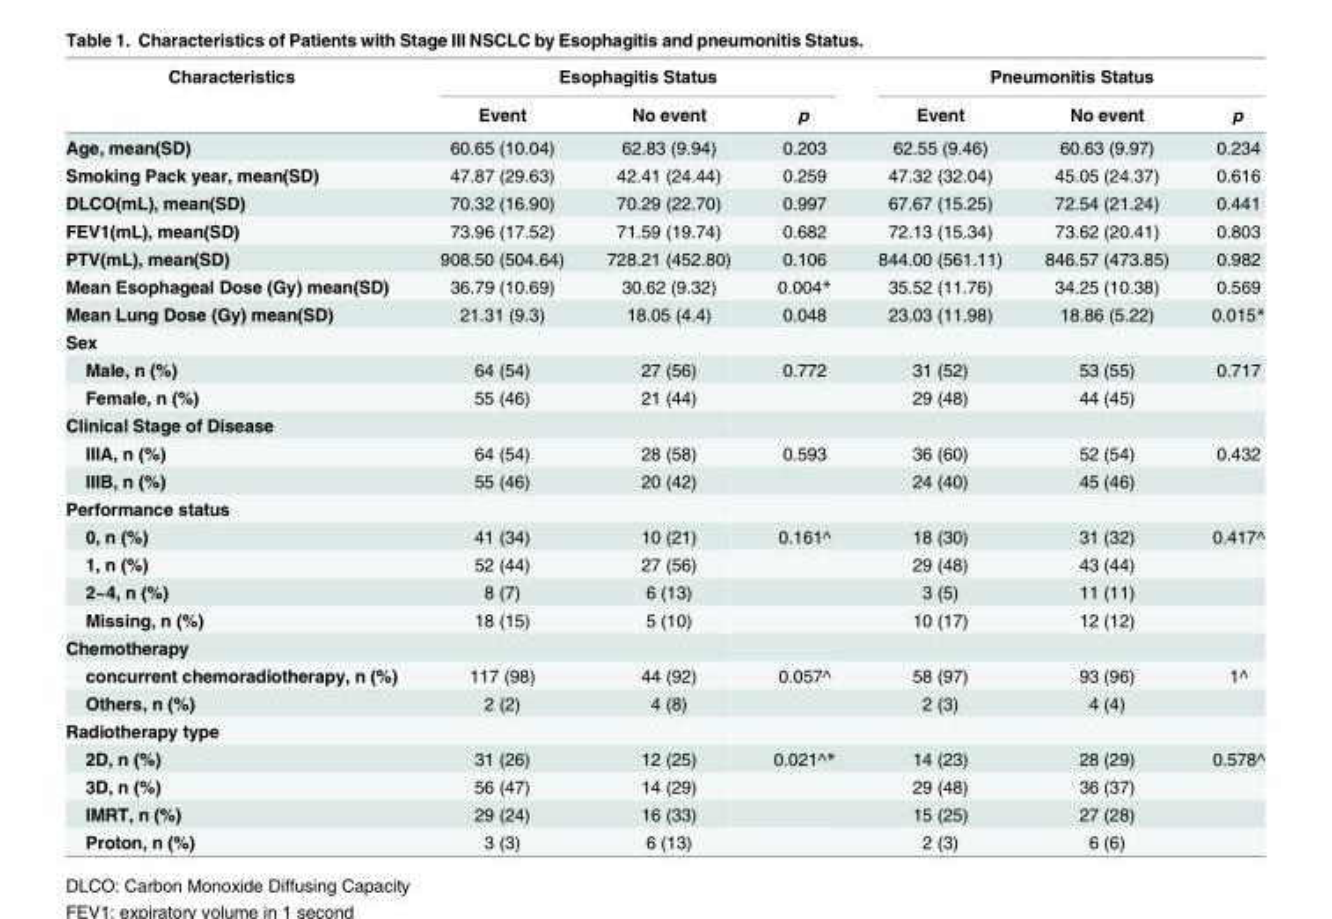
<table><thead><tr><td rowspan="2">Characteristics</td><td colspan="3">Esophagitis Status</td><td colspan="3">Pneumonitis Status</td></tr><tr><td>Event</td><td>No event</td><td>p</td><td>Event</td><td>No event</td><td>p</td></tr></thead><tbody><tr><td>Age, mean(SD)</td><td>60.65 (10.04)</td><td>62.83 (9.94)</td><td>0.203</td><td>62.55 (9.46)</td><td>60.63 (9.97)</td><td>0.234</td></tr><tr><td>Smoking Pack year, mean(SD)</td><td>47.87 (29.63)</td><td>42.41 (24.44)</td><td>0.259</td><td>47.32 (32.04)</td><td>45.05 (24.37)</td><td>0.616</td></tr><tr><td>DLCO(mL), mean(SD)</td><td>70.32 (16.90)</td><td>70.29 (22.70)</td><td>0.997</td><td>67.67 (15.25)</td><td>72.54 (21.24)</td><td>0.441</td></tr><tr><td>FEV1(mL), mean(SD)</td><td>73.96 (17.52)</td><td>71.59 (19.74)</td><td>0.682</td><td>72.13 (15.34)</td><td>73.62 (20.41)</td><td>0.803</td></tr><tr><td>PTV(mL), mean(SD)</td><td>908.50 (504.64)</td><td>728.21 (452.80)</td><td>0.106</td><td>844.00 (561.11)</td><td>846.57 (473.85)</td><td>0.982</td></tr><tr><td>Mean Esophageal Dose (Gy) mean(SD)</td><td>36.79 (10.69)</td><td>30.62 (9.32)</td><td>0.004*</td><td>35.52 (11.76)</td><td>34.25 (10.38)</td><td>0.569</td></tr><tr><td>Mean Lung Dose (Gy) mean(SD)</td><td>21.31 (9.3)</td><td>18.05 (4.4)</td><td>0.048</td><td>23.03 (11.98)</td><td>18.86 (5.22)</td><td>0.015*</td></tr><tr><td colspan="7">Sex</td></tr><tr><td>Male, n (%)</td><td>64 (54)</td><td>27 (56)</td><td>0.772</td><td>31 (52)</td><td>53 (55)</td><td>0.717</td></tr><tr><td>Female, n (%)</td><td>55 (46)</td><td>21 (44)</td><td></td><td>29 (48)</td><td>44 (45)</td><td></td></tr><tr><td colspan="7">Clinical Stage of Disease</td></tr><tr><td>IIIA, n (%)</td><td>64 (54)</td><td>28 (58)</td><td>0.593</td><td>36 (60)</td><td>52 (54)</td><td>0.432</td></tr><tr><td>IIIB, n (%)</td><td>55 (46)</td><td>20 (42)</td><td></td><td>24 (40)</td><td>45 (46)</td><td></td></tr><tr><td colspan="7">Performance status</td></tr><tr><td>0, n (%)</td><td>41 (34)</td><td>10 (21)</td><td>0.161^</td><td>18 (30)</td><td>31 (32)</td><td>0.417^</td></tr><tr><td>1, n (%)</td><td>52 (44)</td><td>27 (56)</td><td></td><td>29 (48)</td><td>43 (44)</td><td></td></tr><tr><td>2~4, n (%)</td><td>8 (7)</td><td>6 (13)</td><td></td><td>3 (5)</td><td>11 (11)</td><td></td></tr><tr><td>Missing, n (%)</td><td>18 (15)</td><td>5 (10)</td><td></td><td>10 (17)</td><td>12 (12)</td><td></td></tr><tr><td colspan="7">Chemotherapy</td></tr><tr><td>concurrent chemoradiotherapy, n (%)</td><td>117 (98)</td><td>44 (92)</td><td>0.057^</td><td>58 (97)</td><td>93 (96)</td><td>1^</td></tr><tr><td>Others, n (%)</td><td>2 (2)</td><td>4 (8)</td><td></td><td>2 (3)</td><td>4 (4)</td><td></td></tr><tr><td colspan="7">Radiotherapy type</td></tr><tr><td>2D, n (%)</td><td>31 (26)</td><td>12 (25)</td><td>0.021^*</td><td>14 (23)</td><td>28 (29)</td><td>0.578^</td></tr><tr><td>3D, n (%)</td><td>56 (47)</td><td>14 (29)</td><td></td><td>29 (48)</td><td>36 (37)</td><td></td></tr><tr><td>IMRT, n (%)</td><td>29 (24)</td><td>16 (33)</td><td></td><td>15 (25)</td><td>27 (28)</td><td></td></tr><tr><td>Proton, n (%)</td><td>3 (3)</td><td>6 (13)</td><td></td><td>2 (3)</td><td>6 (6)</td><td></td></tr></tbody></table>